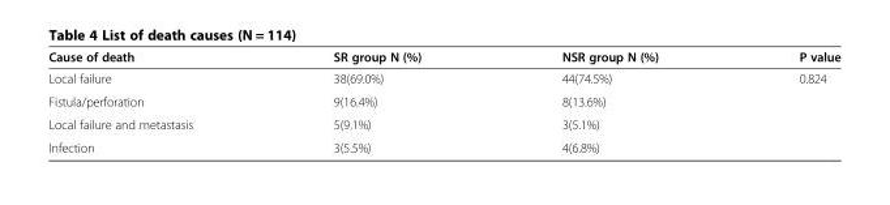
<table><thead><tr><td>Cause of death</td><td>SR group N (%)</td><td>NSR group N (%)</td><td>P value</td></tr></thead><tbody><tr><td>Local failure</td><td>38(69.0%)</td><td>44(74.5%)</td><td rowspan="4">0.824</td></tr><tr><td>Fistula/perforation</td><td>9(16.4%)</td><td>8(13.6%)</td></tr><tr><td>Local failure and metastasis</td><td>5(9.1%)</td><td>3(5.1%)</td></tr><tr><td>Infection</td><td>3(5.5%)</td><td>4(6.8%)</td></tr></tbody></table>